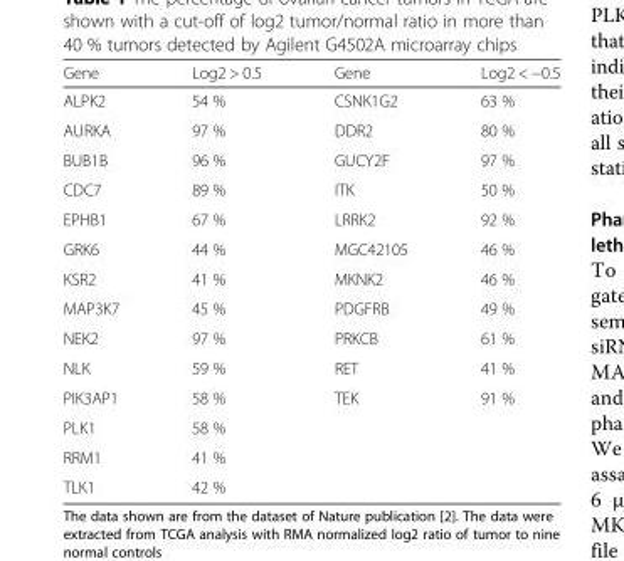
<table><thead><tr><td>Gene</td><td>Log2 &gt; 0.5</td><td>Gene</td><td>Log2 &lt; −0.5</td></tr></thead><tbody><tr><td>ALPK2</td><td>54 %</td><td>CSNK1G2</td><td>63 %</td></tr><tr><td>AURKA</td><td>97 %</td><td>DDR2</td><td>80 %</td></tr><tr><td>BUB1B</td><td>96 %</td><td>GUCY2F</td><td>97 %</td></tr><tr><td>CDC7</td><td>89 %</td><td>ITK</td><td>50 %</td></tr><tr><td>EPHB1</td><td>67 %</td><td>LRRK2</td><td>92 %</td></tr><tr><td>GRK6</td><td>44 %</td><td>MGC42105</td><td>46 %</td></tr><tr><td>KSR2</td><td>41 %</td><td>MKNK2</td><td>46 %</td></tr><tr><td>MAP3K7</td><td>45 %</td><td>PDGFRB</td><td>49 %</td></tr><tr><td>NEK2</td><td>97 %</td><td>PRKCB</td><td>61 %</td></tr><tr><td>NLK</td><td>59 %</td><td>RET</td><td>41 %</td></tr><tr><td>PIK3AP1</td><td>58 %</td><td>TEK</td><td>91 %</td></tr><tr><td>PLK1</td><td>58 %</td><td></td><td></td></tr><tr><td>RRM1</td><td>41 %</td><td></td><td></td></tr><tr><td>TLK1</td><td>42 %</td><td></td><td></td></tr></tbody></table>